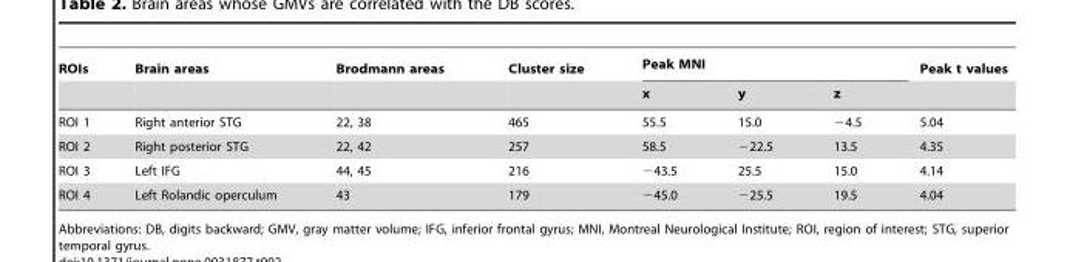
<table><thead><tr><td rowspan="2">ROIs</td><td rowspan="2">Brain areas</td><td rowspan="2">Brodmann areas</td><td rowspan="2">Cluster size</td><td colspan="3">Peak MNI</td><td rowspan="2">Peak t values</td></tr><tr><td>x</td><td>y</td><td>z</td></tr></thead><tbody><tr><td>ROI 1</td><td>Right anterior STG</td><td>22, 38</td><td>465</td><td>55.5</td><td>15.0</td><td>−4.5</td><td>5.04</td></tr><tr><td>ROI 2</td><td>Right posterior STG</td><td>22, 42</td><td>257</td><td>58.5</td><td>−22.5</td><td>13.5</td><td>4.35</td></tr><tr><td>ROI 3</td><td>Left IFG</td><td>44, 45</td><td>216</td><td>−43.5</td><td>25.5</td><td>15.0</td><td>4.14</td></tr><tr><td>ROI 4</td><td>Left Rolandic operculum</td><td>43</td><td>179</td><td>−45.0</td><td>−25.5</td><td>19.5</td><td>4.04</td></tr></tbody></table>